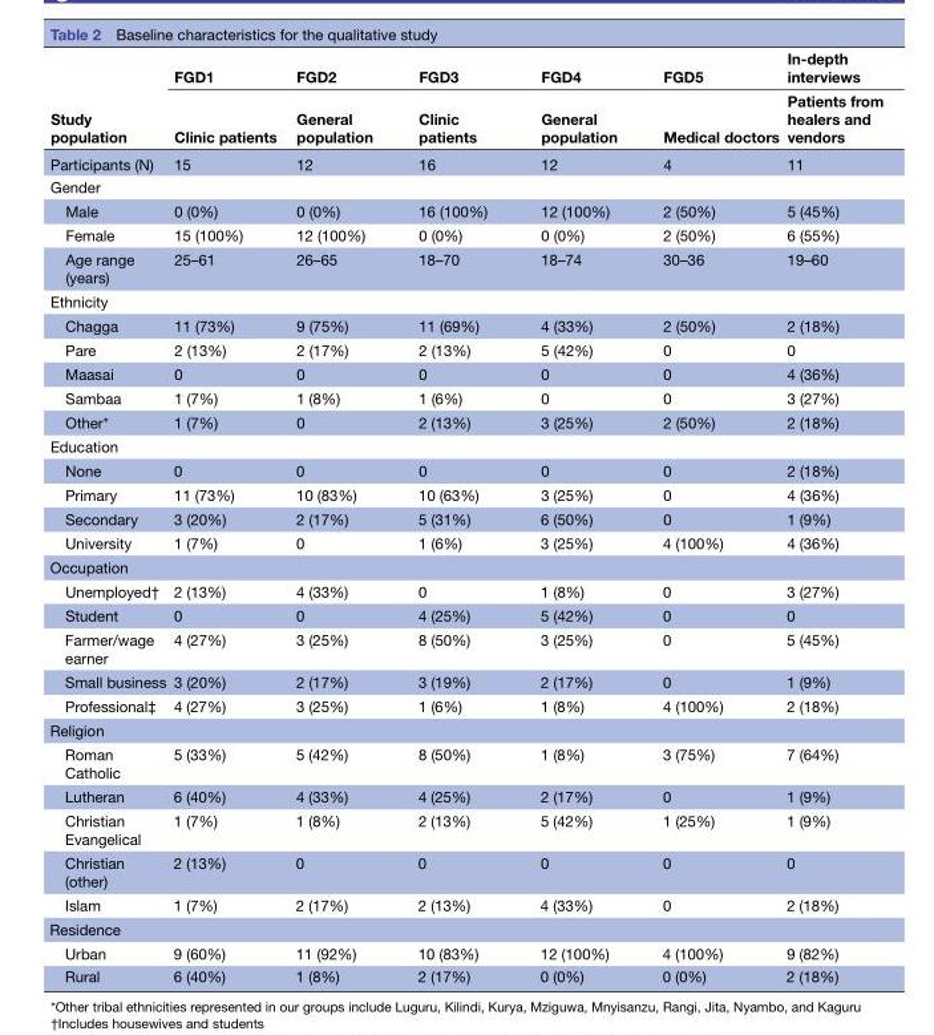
<table><thead><tr><td rowspan="2">Study population</td><td rowspan="2">FGD1 Clinic patients</td><td rowspan="2">FGD2 General population</td><td rowspan="2">FGD3 Clinic patients</td><td rowspan="2">FGD4 General population</td><td rowspan="2">FGD5 Medical doctors</td><td rowspan="2">In-depth interviews Patients from healers and vendors</td></tr><tr></tr></thead><tbody><tr><td>Participants (N)</td><td>15</td><td>12</td><td>16</td><td>12</td><td>4</td><td>11</td></tr><tr><td colspan="7">Gender</td></tr><tr><td>Male</td><td>0 (0%)</td><td>0 (0%)</td><td>16 (100%)</td><td>12 (100%)</td><td>2 (50%)</td><td>5 (45%)</td></tr><tr><td>Female</td><td>15 (100%)</td><td>12 (100%)</td><td>0 (0%)</td><td>0 (0%)</td><td>2 (50%)</td><td>6 (55%)</td></tr><tr><td>Age range (years)</td><td>25–61</td><td>26–65</td><td>18–70</td><td>18–74</td><td>30–36</td><td>19–60</td></tr><tr><td colspan="7">Ethnicity</td></tr><tr><td>Chagga</td><td>11 (73%)</td><td>9 (75%)</td><td>11 (69%)</td><td>4 (33%)</td><td>2 (50%)</td><td>2 (18%)</td></tr><tr><td>Pare</td><td>2 (13%)</td><td>2 (17%)</td><td>2 (13%)</td><td>5 (42%)</td><td>0</td><td>0</td></tr><tr><td>Maasai</td><td>0</td><td>0</td><td>0</td><td>0</td><td>0</td><td>4 (36%)</td></tr><tr><td>Sambaa</td><td>1 (7%)</td><td>1 (8%)</td><td>1 (6%)</td><td>0</td><td>0</td><td>3 (27%)</td></tr><tr><td>Other*</td><td>1 (7%)</td><td>0</td><td>2 (13%)</td><td>3 (25%)</td><td>2 (50%)</td><td>2 (18%)</td></tr><tr><td colspan="7">Education</td></tr><tr><td>None</td><td>0</td><td>0</td><td>0</td><td>0</td><td>0</td><td>2 (18%)</td></tr><tr><td>Primary</td><td>11 (73%)</td><td>10 (83%)</td><td>10 (63%)</td><td>3 (25%)</td><td>0</td><td>4 (36%)</td></tr><tr><td>Secondary</td><td>3 (20%)</td><td>2 (17%)</td><td>5 (31%)</td><td>6 (50%)</td><td>0</td><td>1 (9%)</td></tr><tr><td>University</td><td>1 (7%)</td><td>0</td><td>1 (6%)</td><td>3 (25%)</td><td>4 (100%)</td><td>4 (36%)</td></tr><tr><td colspan="7">Occupation</td></tr><tr><td>Unemployed†</td><td>2 (13%)</td><td>4 (33%)</td><td>0</td><td>1 (8%)</td><td>0</td><td>3 (27%)</td></tr><tr><td>Student</td><td>0</td><td>0</td><td>4 (25%)</td><td>5 (42%)</td><td>0</td><td>0</td></tr><tr><td>Farmer/wage earner</td><td>4 (27%)</td><td>3 (25%)</td><td>8 (50%)</td><td>3 (25%)</td><td>0</td><td>5 (45%)</td></tr><tr><td>Small business</td><td>3 (20%)</td><td>2 (17%)</td><td>3 (19%)</td><td>2 (17%)</td><td>0</td><td>1 (9%)</td></tr><tr><td>Professional‡</td><td>4 (27%)</td><td>3 (25%)</td><td>1 (6%)</td><td>1 (8%)</td><td>4 (100%)</td><td>2 (18%)</td></tr><tr><td colspan="7">Religion</td></tr><tr><td>Roman Catholic</td><td>5 (33%)</td><td>5 (42%)</td><td>8 (50%)</td><td>1 (8%)</td><td>3 (75%)</td><td>7 (64%)</td></tr><tr><td>Lutheran</td><td>6 (40%)</td><td>4 (33%)</td><td>4 (25%)</td><td>2 (17%)</td><td>0</td><td>1 (9%)</td></tr><tr><td>Christian Evangelical</td><td>1 (7%)</td><td>1 (8%)</td><td>2 (13%)</td><td>5 (42%)</td><td>1 (25%)</td><td>1 (9%)</td></tr><tr><td>Christian (other)</td><td>2 (13%)</td><td>0</td><td>0</td><td>0</td><td>0</td><td>0</td></tr><tr><td>Islam</td><td>1 (7%)</td><td>2 (17%)</td><td>2 (13%)</td><td>4 (33%)</td><td>0</td><td>2 (18%)</td></tr><tr><td colspan="7">Residence</td></tr><tr><td>Urban</td><td>9 (60%)</td><td>11 (92%)</td><td>10 (83%)</td><td>12 (100%)</td><td>4 (100%)</td><td>9 (82%)</td></tr><tr><td>Rural</td><td>6 (40%)</td><td>1 (8%)</td><td>2 (17%)</td><td>0 (0%)</td><td>0 (0%)</td><td>2 (18%)</td></tr></tbody></table>